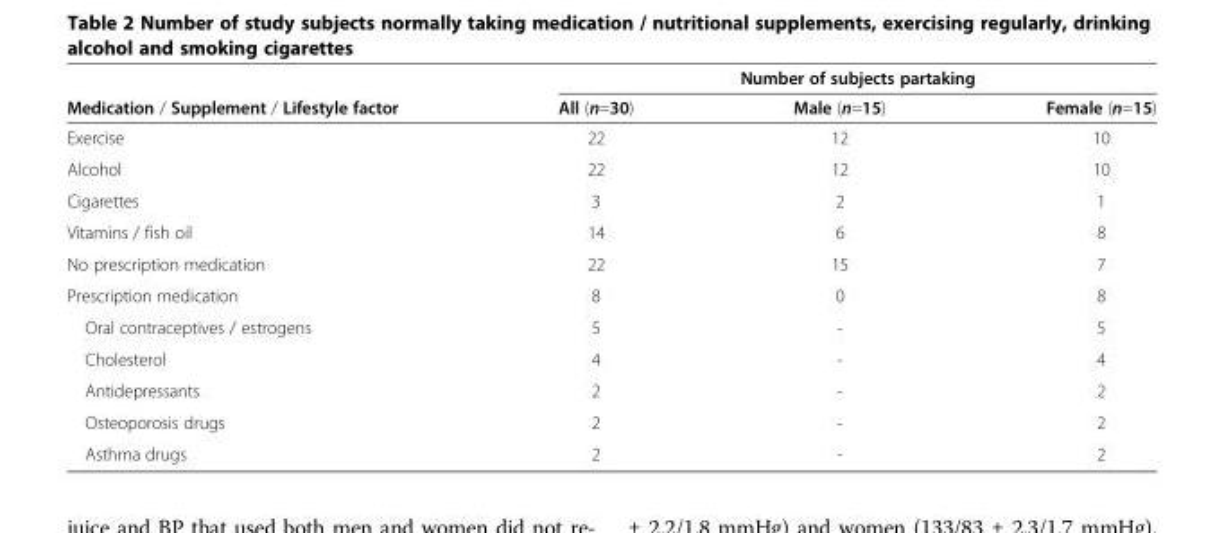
<table><thead><tr><td rowspan="2">Medication / Supplement / Lifestyle factor</td><td colspan="3">Number of subjects partaking</td></tr><tr><td>All (n=30)</td><td>Male (n=15)</td><td>Female (n=15)</td></tr></thead><tbody><tr><td>Exercise</td><td>22</td><td>12</td><td>10</td></tr><tr><td>Alcohol</td><td>22</td><td>12</td><td>10</td></tr><tr><td>Cigarettes</td><td>3</td><td>2</td><td>1</td></tr><tr><td>Vitamins / fish oil</td><td>14</td><td>6</td><td>8</td></tr><tr><td>No prescription medication</td><td>22</td><td>15</td><td>7</td></tr><tr><td>Prescription medication</td><td>8</td><td>0</td><td>8</td></tr><tr><td>Oral contraceptives / estrogens</td><td>5</td><td>-</td><td>5</td></tr><tr><td>Cholesterol</td><td>4</td><td>-</td><td>4</td></tr><tr><td>Antidepressants</td><td>2</td><td>-</td><td>2</td></tr><tr><td>Osteoporosis drugs</td><td>2</td><td>-</td><td>2</td></tr><tr><td>Asthma drugs</td><td>2</td><td>-</td><td>2</td></tr></tbody></table>